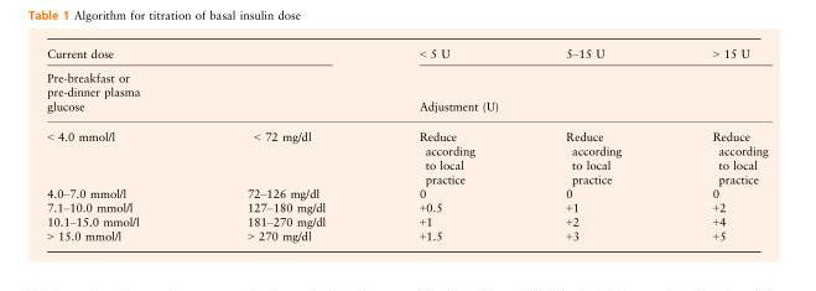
<table><thead><tr><td rowspan="2" colspan="2">Current dose Pre-breakfast or pre-dinner plasma glucose</td><td>&lt; 5 U</td><td>5–15 U</td><td>&gt; 15 U</td></tr><tr><td colspan="3">Adjustment (U)</td></tr><tr><td>&lt; 4.0 mmol/l</td><td>&lt; 72 mg/dl</td><td>Reduce according to local practice</td><td>Reduce according to local practice</td><td>Reduce according to local practice</td></tr></thead><tbody><tr><td>4.0–7.0 mmol/l</td><td>72–126 mg/dl</td><td>0</td><td>0</td><td>0</td></tr><tr><td>7.1–10.0 mmol/l</td><td>127–180 mg/dl</td><td>+0.5</td><td>+1</td><td>+2</td></tr><tr><td>10.1–15.0 mmol/l</td><td>181–270 mg/dl</td><td>+1</td><td>+2</td><td>+4</td></tr><tr><td>&gt; 15.0 mmol/l</td><td>&gt; 270 mg/dl</td><td>+1.5</td><td>+3</td><td>+5</td></tr></tbody></table>